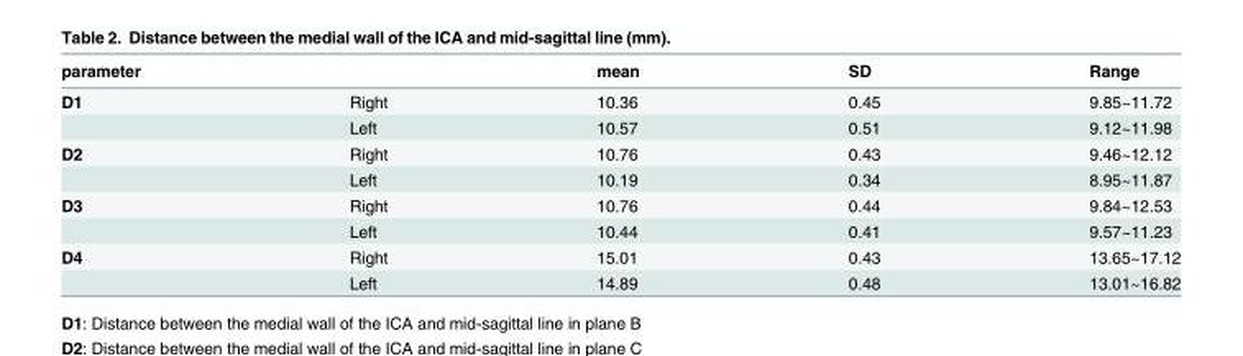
<table><thead><tr><td>parameter</td><td></td><td>mean</td><td>SD</td><td>Range</td></tr></thead><tbody><tr><td rowspan="2">D1</td><td>Right</td><td>10.36</td><td>0.45</td><td>9.85~11.72</td></tr><tr><td>Left</td><td>10.57</td><td>0.51</td><td>9.12~11.98</td></tr><tr><td rowspan="2">D2</td><td>Right</td><td>10.76</td><td>0.43</td><td>9.46~12.12</td></tr><tr><td>Left</td><td>10.19</td><td>0.34</td><td>8.95~11.87</td></tr><tr><td rowspan="2">D3</td><td>Right</td><td>10.76</td><td>0.44</td><td>9.84~12.53</td></tr><tr><td>Left</td><td>10.44</td><td>0.41</td><td>9.57~11.23</td></tr><tr><td rowspan="2">D4</td><td>Right</td><td>15.01</td><td>0.43</td><td>13.65~17.12</td></tr><tr><td>Left</td><td>14.89</td><td>0.48</td><td>13.01~16.82</td></tr></tbody></table>